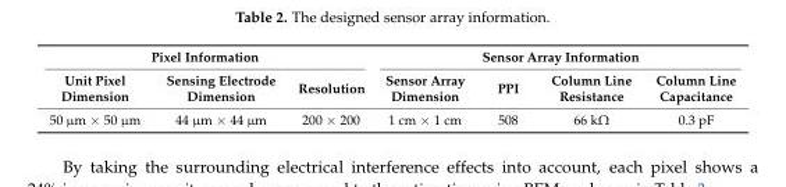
<table><thead><tr><td colspan="3">Pixel Information</td><td colspan="4">Sensor Array Information</td></tr><tr><td>Unit Pixel Dimension</td><td>Sensing Electrode Dimension</td><td>Resolution</td><td>Sensor Array Dimension</td><td>PPI</td><td>Column Line Resistance</td><td>Column Line Capacitance</td></tr></thead><tbody><tr><td>50 µm × 50 µm</td><td>44 µm × 44 µm</td><td>200 × 200</td><td>1 cm × 1 cm</td><td>508</td><td>66 kΩ</td><td>0.3 pF</td></tr></tbody></table>